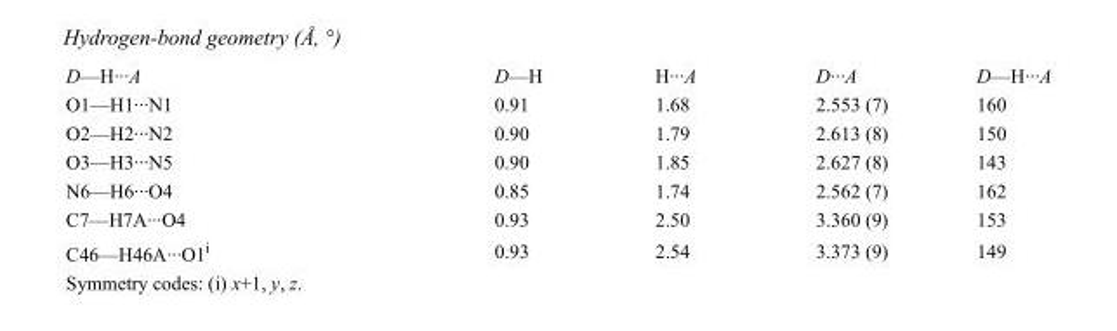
<table><tbody><tr><td>D—H···A</td><td>D—H</td><td>H···A</td><td>D···A</td><td>D—H···A</td></tr><tr><td>O1—H1···N1</td><td>0.91</td><td>1.68</td><td>2.553 (7)</td><td>160</td></tr><tr><td>O2—H2···N2</td><td>0.90</td><td>1.79</td><td>2.613 (8)</td><td>150</td></tr><tr><td>O3—H3···N5</td><td>0.90</td><td>1.85</td><td>2.627 (8)</td><td>143</td></tr><tr><td>N6—H6···O4</td><td>0.85</td><td>1.74</td><td>2.562 (7)</td><td>162</td></tr><tr><td>C7—H7A···O4</td><td>0.93</td><td>2.50</td><td>3.360 (9)</td><td>153</td></tr><tr><td>C46—H46A···O1<sup>i</sup></td><td>0.93</td><td>2.54</td><td>3.373 (9)</td><td>149</td></tr></tbody></table>